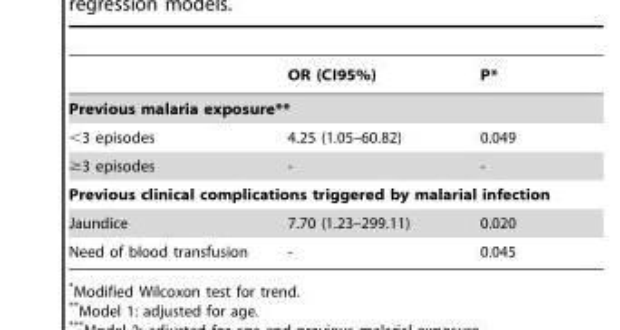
<table><thead><tr><td></td><td>OR (CI95%)</td><td>P*</td></tr></thead><tbody><tr><td colspan="3">Previous malaria exposure**</td></tr><tr><td>&lt;3 episodes</td><td>4.25 (1.05–60.82)</td><td>0.049</td></tr><tr><td>≥3 episodes</td><td>-</td><td>-</td></tr><tr><td colspan="3">Previous clinical complications triggered by malarial infection</td></tr><tr><td>Jaundice</td><td>7.70 (1.23–299.11)</td><td>0.020</td></tr><tr><td>Need of blood transfusion</td><td>-</td><td>0.045</td></tr></tbody></table>